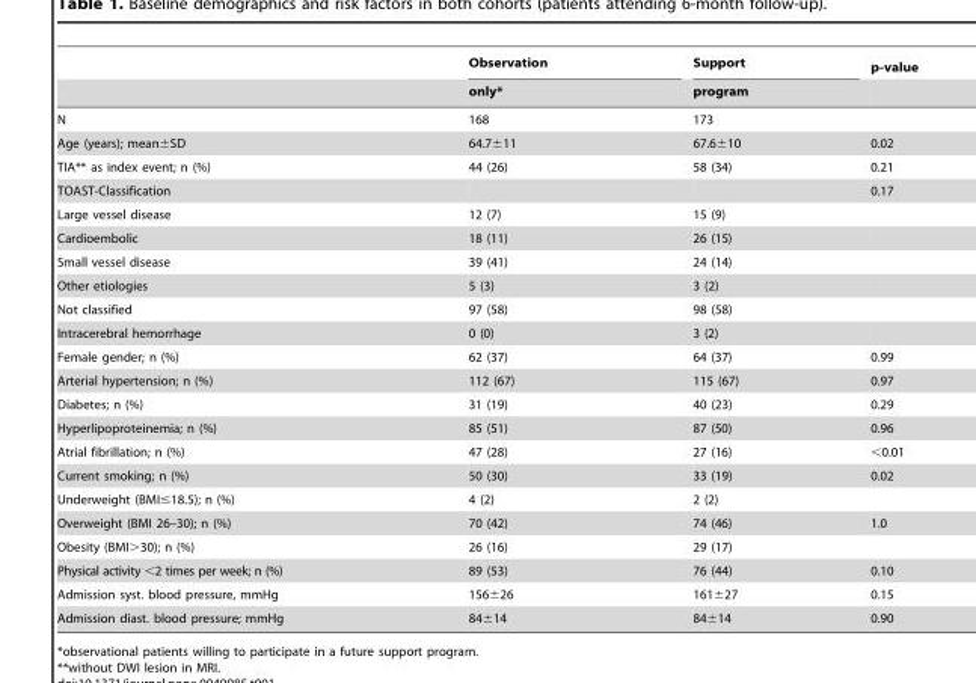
<table><thead><tr><td rowspan="2"></td><td rowspan="2">Observation only*</td><td rowspan="2">Support program</td><td rowspan="2">p-value</td></tr><tr></tr></thead><tbody><tr><td>N</td><td>168</td><td>173</td><td></td></tr><tr><td>Age (years); mean±SD</td><td>64.7±11</td><td>67.6±10</td><td>0.02</td></tr><tr><td>TIA** as index event; n (%)</td><td>44 (26)</td><td>58 (34)</td><td>0.21</td></tr><tr><td>TOAST-Classification</td><td></td><td></td><td>0.17</td></tr><tr><td>Large vessel disease</td><td>12 (7)</td><td>15 (9)</td><td></td></tr><tr><td>Cardioembolic</td><td>18 (11)</td><td>26 (15)</td><td></td></tr><tr><td>Small vessel disease</td><td>39 (41)</td><td>24 (14)</td><td></td></tr><tr><td>Other etiologies</td><td>5 (3)</td><td>3 (2)</td><td></td></tr><tr><td>Not classified</td><td>97 (58)</td><td>98 (58)</td><td></td></tr><tr><td>Intracerebral hemorrhage</td><td>0 (0)</td><td>3 (2)</td><td></td></tr><tr><td>Female gender; n (%)</td><td>62 (37)</td><td>64 (37)</td><td>0.99</td></tr><tr><td>Arterial hypertension; n (%)</td><td>112 (67)</td><td>115 (67)</td><td>0.97</td></tr><tr><td>Diabetes; n (%)</td><td>31 (19)</td><td>40 (23)</td><td>0.29</td></tr><tr><td>Hyperlipoproteinemia; n (%)</td><td>85 (51)</td><td>87 (50)</td><td>0.96</td></tr><tr><td>Atrial fibrillation; n (%)</td><td>47 (28)</td><td>27 (16)</td><td>&lt;0.01</td></tr><tr><td>Current smoking; n (%)</td><td>50 (30)</td><td>33 (19)</td><td>0.02</td></tr><tr><td>Underweight (BMI≤18.5); n (%)</td><td>4 (2)</td><td>2 (2)</td><td></td></tr><tr><td>Overweight (BMI 26–30); n (%)</td><td>70 (42)</td><td>74 (46)</td><td>1.0</td></tr><tr><td>Obesity (BMI&gt;30); n (%)</td><td>26 (16)</td><td>29 (17)</td><td></td></tr><tr><td>Physical activity &lt;2 times per week; n (%)</td><td>89 (53)</td><td>76 (44)</td><td>0.10</td></tr><tr><td>Admission syst. blood pressure, mmHg</td><td>156±26</td><td>161±27</td><td>0.15</td></tr><tr><td>Admission diast. blood pressure; mmHg</td><td>84±14</td><td>84±14</td><td>0.90</td></tr></tbody></table>